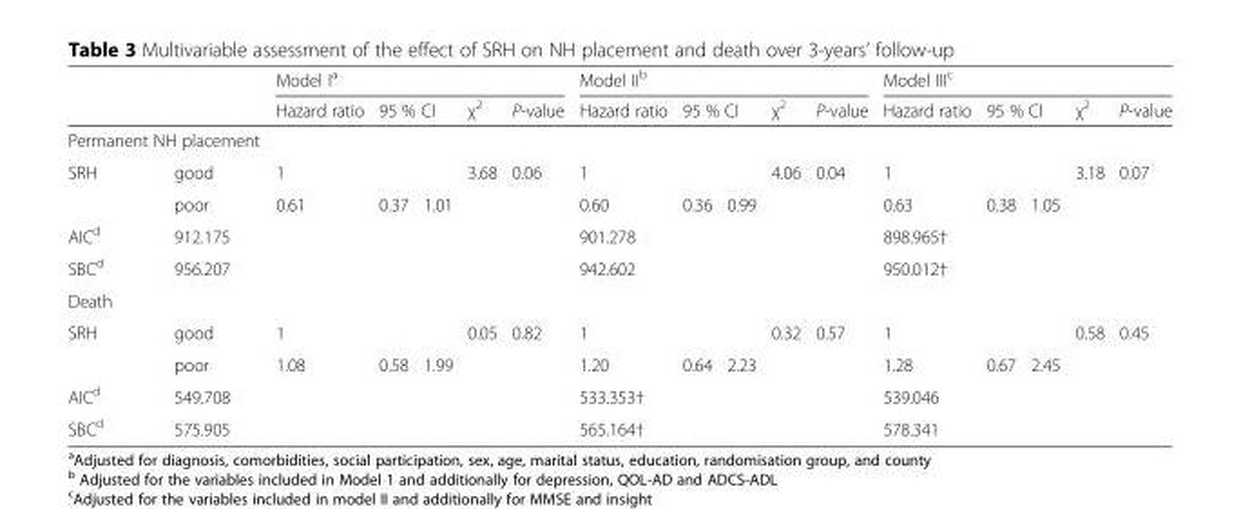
<table><thead><tr><td rowspan="2"></td><td rowspan="2"></td><td colspan="5">Model I<sup>a</sup></td><td colspan="5">Model II<sup>b</sup></td><td colspan="5">Model III<sup>c</sup></td></tr><tr><td rowspan="2">Hazard ratio</td><td colspan="2">95 % CI</td><td rowspan="2">χ<sup>2</sup></td><td rowspan="2">P-value</td><td rowspan="2">Hazard ratio</td><td colspan="2">95 % CI</td><td rowspan="2">χ<sup>2</sup></td><td rowspan="2">P-value</td><td rowspan="2">Hazard ratio</td><td colspan="2">95 % CI</td><td rowspan="2">χ<sup>2</sup></td><td rowspan="2">P-value</td></tr><tr><td colspan="2">Permanent NH placement</td><td></td><td></td><td></td><td></td><td></td><td></td></tr></thead><tbody><tr><td rowspan="2">SRH</td><td>good</td><td>1</td><td></td><td></td><td rowspan="2">3.68</td><td rowspan="2">0.06</td><td>1</td><td></td><td></td><td rowspan="2">4.06</td><td rowspan="2">0.04</td><td>1</td><td></td><td></td><td rowspan="2">3.18</td><td rowspan="2">0.07</td></tr><tr><td>poor</td><td>0.61</td><td>0.37</td><td>1.01</td><td>0.60</td><td>0.36</td><td>0.99</td><td>0.63</td><td>0.38</td><td>1.05</td></tr><tr><td>AIC<sup>d</sup></td><td colspan="6">912.175</td><td colspan="3">901.278</td><td></td><td></td><td colspan="3">898.965†</td><td></td><td></td></tr><tr><td>SBC<sup>d</sup></td><td colspan="6">956.207</td><td colspan="3">942.602</td><td></td><td></td><td colspan="3">950.012†</td><td></td><td></td></tr><tr><td colspan="17">Death</td></tr><tr><td rowspan="2">SRH</td><td>good</td><td>1</td><td></td><td></td><td rowspan="2">0.05</td><td rowspan="2">0.82</td><td>1</td><td></td><td></td><td rowspan="2">0.32</td><td rowspan="2">0.57</td><td>1</td><td></td><td></td><td rowspan="2">0.58</td><td rowspan="2">0.45</td></tr><tr><td>poor</td><td>1.08</td><td>0.58</td><td>1.99</td><td>1.20</td><td>0.64</td><td>2.23</td><td>1.28</td><td>0.67</td><td>2.45</td></tr><tr><td>AIC<sup>d</sup></td><td colspan="6">549.708</td><td colspan="3">533.353†</td><td></td><td></td><td colspan="3">539.046</td><td></td><td></td></tr><tr><td>SBC<sup>d</sup></td><td colspan="6">575.905</td><td colspan="3">565.164†</td><td></td><td></td><td colspan="3">578.341</td><td></td><td></td></tr></tbody></table>